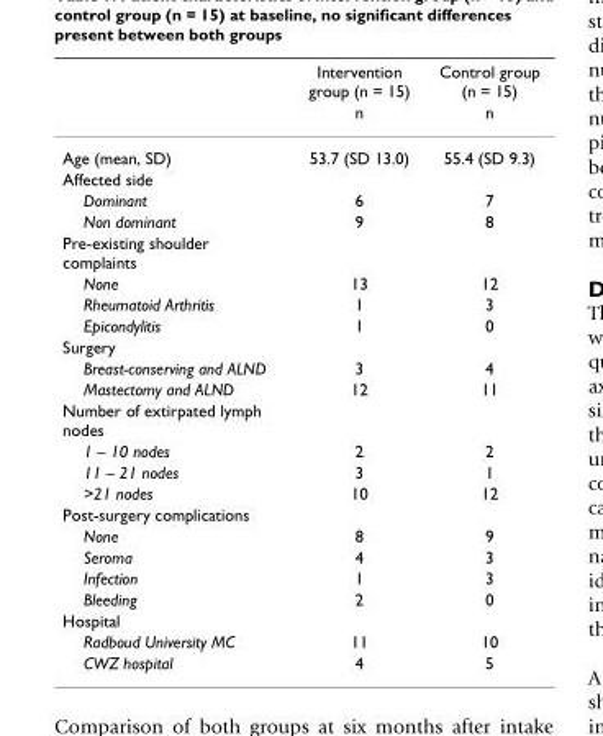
<table><thead><tr><td rowspan="2"></td><td rowspan="2">Intervention group (n = 15) n</td><td rowspan="2">Control group (n = 15) n</td></tr><tr></tr></thead><tbody><tr><td>Age (mean, SD)</td><td>53.7 (SD 13.0)</td><td>55.4 (SD 9.3)</td></tr><tr><td colspan="3">Affected side</td></tr><tr><td>Dominant</td><td>6</td><td>7</td></tr><tr><td>Non dominant</td><td>9</td><td>8</td></tr><tr><td colspan="3">Pre-existing shoulder complaints</td></tr><tr><td>None</td><td>13</td><td>12</td></tr><tr><td>Rheumatoid Arthritis</td><td>1</td><td>3</td></tr><tr><td>Epicondylitis</td><td>1</td><td>0</td></tr><tr><td colspan="3">Surgery</td></tr><tr><td>Breast-conserving and ALND</td><td>3</td><td>4</td></tr><tr><td>Mastectomy and ALND</td><td>12</td><td>11</td></tr><tr><td colspan="3">Number of extirpated lymph nodes</td></tr><tr><td>1 – 10 nodes</td><td>2</td><td>2</td></tr><tr><td>11 – 21 nodes</td><td>3</td><td>1</td></tr><tr><td>&gt;21 nodes</td><td>10</td><td>12</td></tr><tr><td colspan="3">Post-surgery complications</td></tr><tr><td>None</td><td>8</td><td>9</td></tr><tr><td>Seroma</td><td>4</td><td>3</td></tr><tr><td>Infection</td><td>1</td><td>3</td></tr><tr><td>Bleeding</td><td>2</td><td>0</td></tr><tr><td colspan="3">Hospital</td></tr><tr><td>Radboud University MC</td><td>11</td><td>10</td></tr><tr><td>CWZ hospital</td><td>4</td><td>5</td></tr></tbody></table>